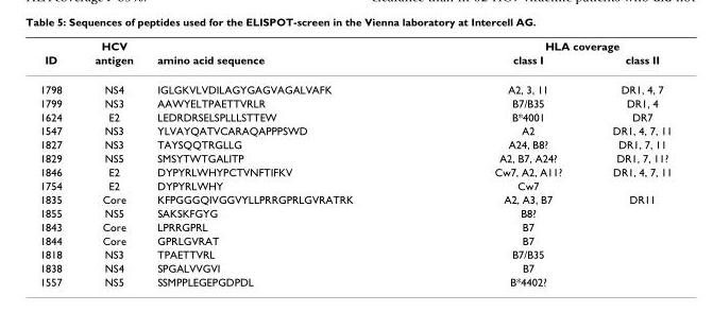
<table><thead><tr><td rowspan="2">ID</td><td rowspan="2">HCV antigen</td><td rowspan="2">amino acid sequence</td><td colspan="2">HLA coverage</td></tr><tr><td>class I</td><td>class II</td></tr></thead><tbody><tr><td>1798</td><td>NS4</td><td>IGLGKVLVDILAGYGAGVAGALVAFK</td><td>A2, 3, 11</td><td>DR1, 4, 7</td></tr><tr><td>1799</td><td>NS3</td><td>AAWYELTPAETTVRLR</td><td>B7/B35</td><td>DR1, 4</td></tr><tr><td>1624</td><td>E2</td><td>LEDRDRSELSPLLLSTTEW</td><td>B*4001</td><td>DR7</td></tr><tr><td>1547</td><td>NS3</td><td>YLVAYQATVCARAQAPPPSWD</td><td>A2</td><td>DR1, 4, 7, 11</td></tr><tr><td>1827</td><td>NS3</td><td>TAYSQQTRGLLG</td><td>A24, B8?</td><td>DR1, 7, 11</td></tr><tr><td>1829</td><td>NS5</td><td>SMSYTWTGALITP</td><td>A2, B7, A24?</td><td>DR1, 7, 11?</td></tr><tr><td>1846</td><td>E2</td><td>DYPYRLWHYPCTVNFTIFKV</td><td>Cw7, A2, A11?</td><td>DR1, 4, 7, 11</td></tr><tr><td>1754</td><td>E2</td><td>DYPYRLWHY</td><td>Cw7</td><td></td></tr><tr><td>1835</td><td>Core</td><td>KFPGGGQIVGGVYLLPRRGPRLGVRATRK</td><td>A2, A3, B7</td><td>DR11</td></tr><tr><td>1855</td><td>NS5</td><td>SAKSKFGYG</td><td>B8?</td><td></td></tr><tr><td>1843</td><td>Core</td><td>LPRRGPRL</td><td>B7</td><td></td></tr><tr><td>1844</td><td>Core</td><td>GPRLGVRAT</td><td>B7</td><td></td></tr><tr><td>1818</td><td>NS3</td><td>TPAETTVRL</td><td>B7/B35</td><td></td></tr><tr><td>1838</td><td>NS4</td><td>SPGALVVGVI</td><td>B7</td><td></td></tr><tr><td>1557</td><td>NS5</td><td>SSMPPLEGEPGDPDL</td><td>B*4402?</td><td></td></tr></tbody></table>